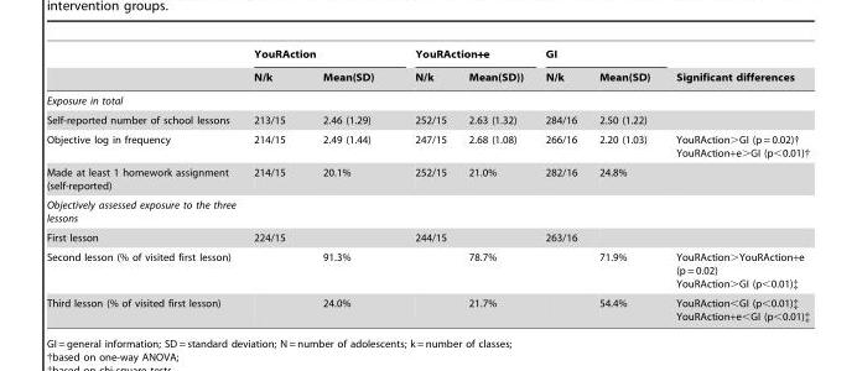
<table><thead><tr><td rowspan="2"></td><td colspan="2">YouRAction</td><td colspan="2">YouRAction+e</td><td colspan="2">GI</td><td rowspan="2">Significant differences</td></tr><tr><td>N/k</td><td>Mean(SD)</td><td>N/k</td><td>Mean(SD))</td><td>N/k</td><td>Mean(SD)</td></tr></thead><tbody><tr><td colspan="8">Exposure in total</td></tr><tr><td>Self-reported number of school lessons</td><td>213/15</td><td>2.46 (1.29)</td><td>252/15</td><td>2.63 (1.32)</td><td>284/16</td><td>2.50 (1.22)</td><td></td></tr><tr><td>Objective log in frequency</td><td>214/15</td><td>2.49 (1.44)</td><td>247/15</td><td>2.68 (1.08)</td><td>266/16</td><td>2.20 (1.03)</td><td>YouRAction&gt;GI (p = 0.02)† YouRAction+e&gt;GI (p&lt;0.01)†</td></tr><tr><td>Made at least 1 homework assignment (self-reported)</td><td>214/15</td><td>20.1%</td><td>252/15</td><td>21.0%</td><td>282/16</td><td>24.8%</td><td></td></tr><tr><td colspan="8">Objectively assessed exposure to the three lessons</td></tr><tr><td>First lesson</td><td>224/15</td><td></td><td>244/15</td><td></td><td>263/16</td><td></td><td></td></tr><tr><td>Second lesson (% of visited first lesson)</td><td></td><td>91.3%</td><td></td><td>78.7%</td><td></td><td>71.9%</td><td>YouRAction&gt;YouRAction+e (p = 0.02) YouRAction&gt;GI (p&lt;0.01)‡</td></tr><tr><td>Third lesson (% of visited first lesson)</td><td></td><td>24.0%</td><td></td><td>21.7%</td><td></td><td>54.4%</td><td>YouRAction&lt;GI (p&lt;0.01)‡ YouRAction+e&lt;GI (p&lt;0.01)‡</td></tr></tbody></table>